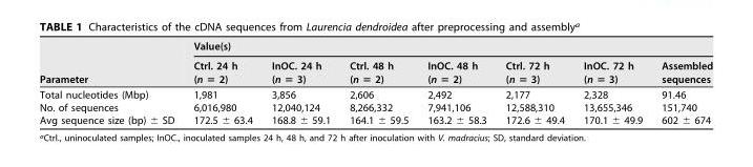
<table><thead><tr><td rowspan="2">Parameter</td><td colspan="7">Value(s)</td></tr><tr><td>Ctrl. 24 h (n = 2)</td><td>InOC. 24 h (n = 3)</td><td>Ctrl. 48 h (n = 2)</td><td>InOC. 48 h (n = 2)</td><td>Ctrl. 72 h (n = 3)</td><td>InOC. 72 h (n = 3)</td><td>Assembled sequences</td></tr></thead><tbody><tr><td>Total nucleotides (Mbp)</td><td>1,981</td><td>3,856</td><td>2,606</td><td>2,492</td><td>2,177</td><td>2,328</td><td>91.46</td></tr><tr><td>No. of sequences</td><td>6,016,980</td><td>12,040,124</td><td>8,266,332</td><td>7,941,106</td><td>12,588,310</td><td>13,655,346</td><td>151,740</td></tr><tr><td>Avg sequence size (bp) ± SD</td><td>172.5 ± 63.4</td><td>168.8 ± 59.1</td><td>164.1 ± 59.5</td><td>163.2 ± 58.3</td><td>172.6 ± 49.4</td><td>170.1 ± 49.9</td><td>602 ± 674</td></tr></tbody></table>